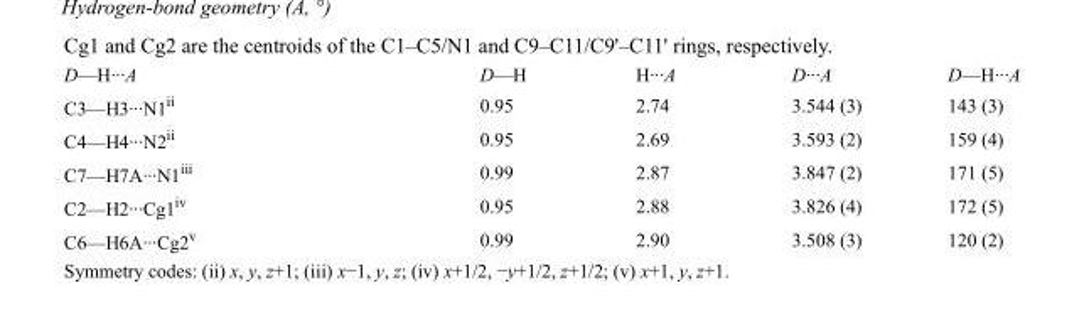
<table><tbody><tr><td>D—H···A</td><td>D—H</td><td>H···A</td><td>D···A</td><td>D—H···A</td></tr><tr><td>C3—H3···N1<sup>ii</sup></td><td>0.95</td><td>2.74</td><td>3.544 (3)</td><td>143 (3)</td></tr><tr><td>C4—H4···N2<sup>ii</sup></td><td>0.95</td><td>2.69</td><td>3.593 (2)</td><td>159 (4)</td></tr><tr><td>C7—H7A···N1<sup>iii</sup></td><td>0.99</td><td>2.87</td><td>3.847 (2)</td><td>171 (5)</td></tr><tr><td>C2—H2···Cg1<sup>iv</sup></td><td>0.95</td><td>2.88</td><td>3.826 (4)</td><td>172 (5)</td></tr><tr><td>C6—H6A···Cg2<sup>v</sup></td><td>0.99</td><td>2.90</td><td>3.508 (3)</td><td>120 (2)</td></tr></tbody></table>